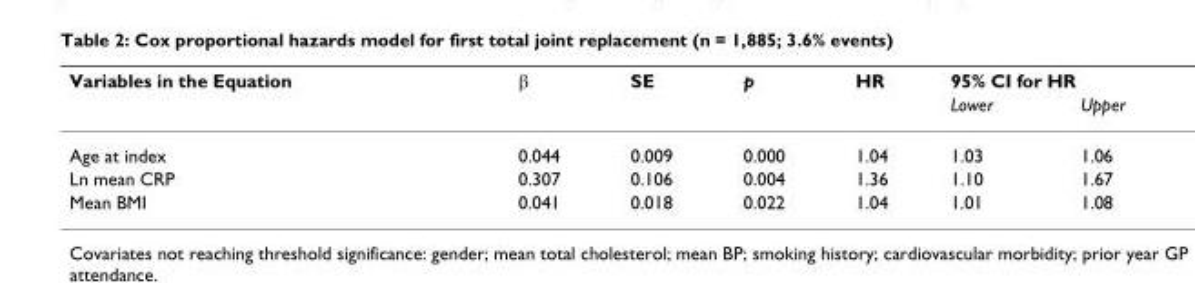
<table><thead><tr><td rowspan="2">Variables in the Equation</td><td rowspan="2">β</td><td rowspan="2">SE</td><td rowspan="2">p</td><td rowspan="2">HR</td><td colspan="2">95% CI for HR</td></tr><tr><td>Lower</td><td>Upper</td></tr></thead><tbody><tr><td>Age at index</td><td>0.044</td><td>0.009</td><td>0.000</td><td>1.04</td><td>1.03</td><td>1.06</td></tr><tr><td>Ln mean CRP</td><td>0.307</td><td>0.106</td><td>0.004</td><td>1.36</td><td>1.10</td><td>1.67</td></tr><tr><td>Mean BMI</td><td>0.041</td><td>0.018</td><td>0.022</td><td>1.04</td><td>1.01</td><td>1.08</td></tr></tbody></table>